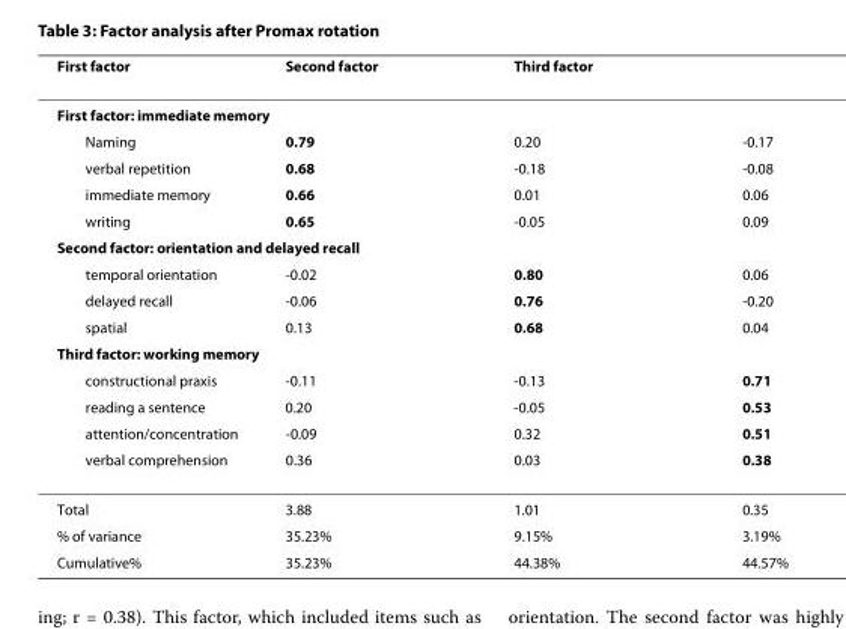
<table><thead><tr><td>First factor</td><td>Second factor</td><td>Third factor</td><td></td></tr></thead><tbody><tr><td colspan="4">First factor: immediate memory</td></tr><tr><td>Naming</td><td>0.79</td><td>0.20</td><td>-0.17</td></tr><tr><td>verbal repetition</td><td>0.68</td><td>-0.18</td><td>-0.08</td></tr><tr><td>immediate memory</td><td>0.66</td><td>0.01</td><td>0.06</td></tr><tr><td>writing</td><td>0.65</td><td>-0.05</td><td>0.09</td></tr><tr><td colspan="4">Second factor: orientation and delayed recall</td></tr><tr><td>temporal orientation</td><td>-0.02</td><td>0.80</td><td>0.06</td></tr><tr><td>delayed recall</td><td>-0.06</td><td>0.76</td><td>-0.20</td></tr><tr><td>spatial</td><td>0.13</td><td>0.68</td><td>0.04</td></tr><tr><td colspan="4">Third factor: working memory</td></tr><tr><td>constructional praxis</td><td>-0.11</td><td>-0.13</td><td>0.71</td></tr><tr><td>reading a sentence</td><td>0.20</td><td>-0.05</td><td>0.53</td></tr><tr><td>attention/concentration</td><td>-0.09</td><td>0.32</td><td>0.51</td></tr><tr><td>verbal comprehension</td><td>0.36</td><td>0.03</td><td>0.38</td></tr><tr><td>Total</td><td>3.88</td><td>1.01</td><td>0.35</td></tr><tr><td>% of variance</td><td>35.23%</td><td>9.15%</td><td>3.19%</td></tr><tr><td>Cumulative%</td><td>35.23%</td><td>44.38%</td><td>44.57%</td></tr></tbody></table>